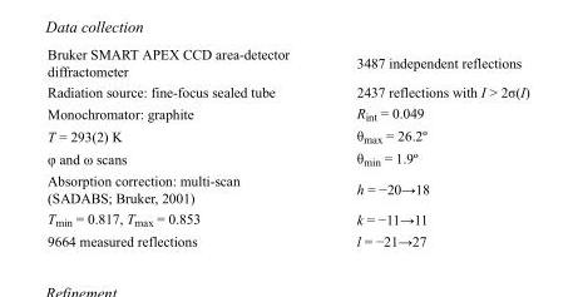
<table><tbody><tr><td>Bruker SMART APEX CCD area-detector diffractometer</td><td>3487 independent reflections</td></tr><tr><td>Radiation source: fine-focus sealed tube</td><td>2437 reflections with I &gt; 2σ(I)</td></tr><tr><td>Monochromator: graphite</td><td>R<sub>int</sub> = 0.049</td></tr><tr><td>T = 293(2) K</td><td>θ<sub>max</sub> = 26.2º</td></tr><tr><td>φ and ω scans</td><td>θ<sub>min</sub> = 1.9º</td></tr><tr><td>Absorption correction: multi-scan (SADABS; Bruker, 2001)</td><td>h = −20→18</td></tr><tr><td>T<sub>min</sub> = 0.817, T<sub>max</sub> = 0.853</td><td>k = −11→11</td></tr><tr><td>9664 measured reflections</td><td>l = −21→27</td></tr></tbody></table>